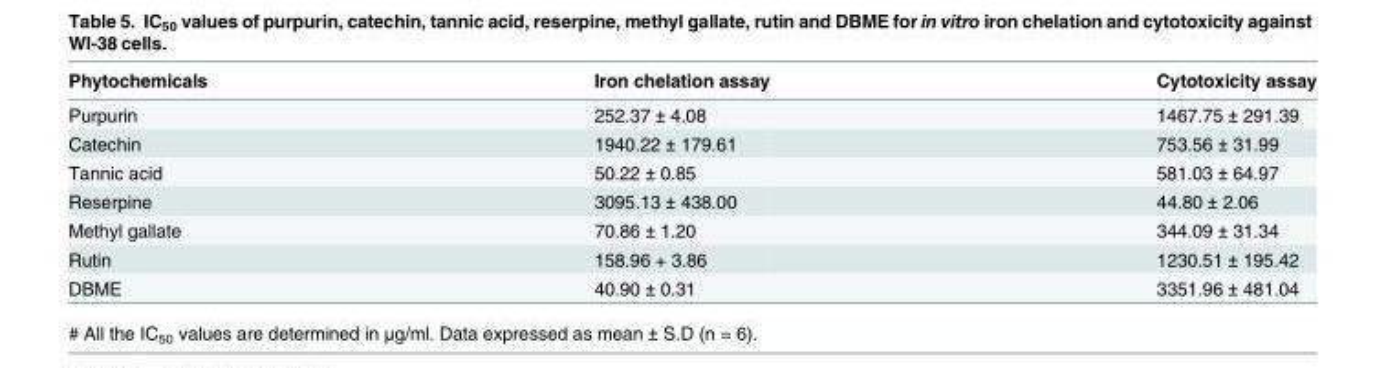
<table><thead><tr><td>Phytochemicals</td><td>Iron chelation assay</td><td>Cytotoxicity assay</td></tr></thead><tbody><tr><td>Purpurin</td><td>252.37 ± 4.08</td><td>1467.75 ± 291.39</td></tr><tr><td>Catechin</td><td>1940.22 ± 179.61</td><td>753.56 ± 31.99</td></tr><tr><td>Tannic acid</td><td>50.22 ± 0.85</td><td>581.03 ± 64.97</td></tr><tr><td>Reserpine</td><td>3095.13 ± 438.00</td><td>44.80 ± 2.06</td></tr><tr><td>Methyl gallate</td><td>70.86 ± 1.20</td><td>344.09 ± 31.34</td></tr><tr><td>Rutin</td><td>158.96 + 3.86</td><td>1230.51 ± 195.42</td></tr><tr><td>DBME</td><td>40.90 ± 0.31</td><td>3351.96 ± 481.04</td></tr></tbody></table>